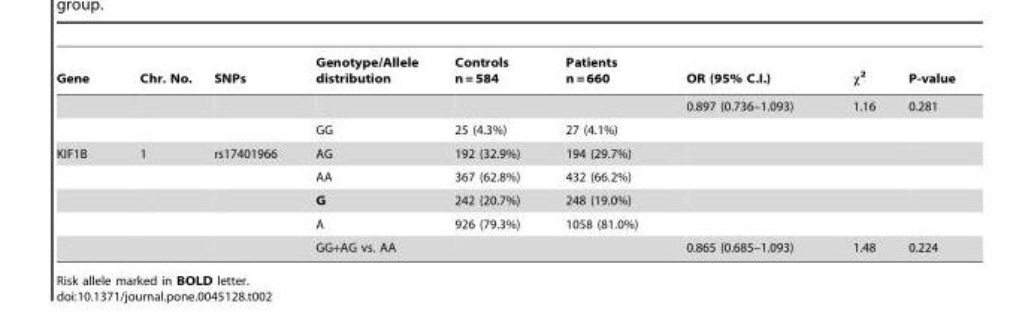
<table><thead><tr><td>Gene</td><td>Chr. No.</td><td>SNPs</td><td>Genotype/Allele distribution</td><td>Controls n = 584</td><td>Patients n = 660</td><td>OR (95% C.I.)</td><td>x2</td><td>P-value</td></tr></thead><tbody><tr><td></td><td></td><td></td><td></td><td></td><td></td><td>0.897 (0.736–1.093)</td><td>1.16</td><td>0.281</td></tr><tr><td></td><td></td><td></td><td>GG</td><td>25 (4.3%)</td><td>27 (4.1%)</td><td></td><td></td><td></td></tr><tr><td rowspan="5">KIF1B</td><td>1</td><td>rs17401966</td><td>AG</td><td>192 (32.9%)</td><td>194 (29.7%)</td><td></td><td></td><td></td></tr><tr><td></td><td></td><td>AA</td><td>367 (62.8%)</td><td>432 (66.2%)</td><td></td><td></td><td></td></tr><tr><td></td><td></td><td>G</td><td>242 (20.7%)</td><td>248 (19.0%)</td><td></td><td></td><td></td></tr><tr><td></td><td></td><td>A</td><td>926 (79.3%)</td><td>1058 (81.0%)</td><td></td><td></td><td></td></tr><tr><td></td><td></td><td>GG+AG vs. AA</td><td></td><td></td><td>0.865 (0.685–1.093)</td><td>1.48</td><td>0.224</td></tr></tbody></table>